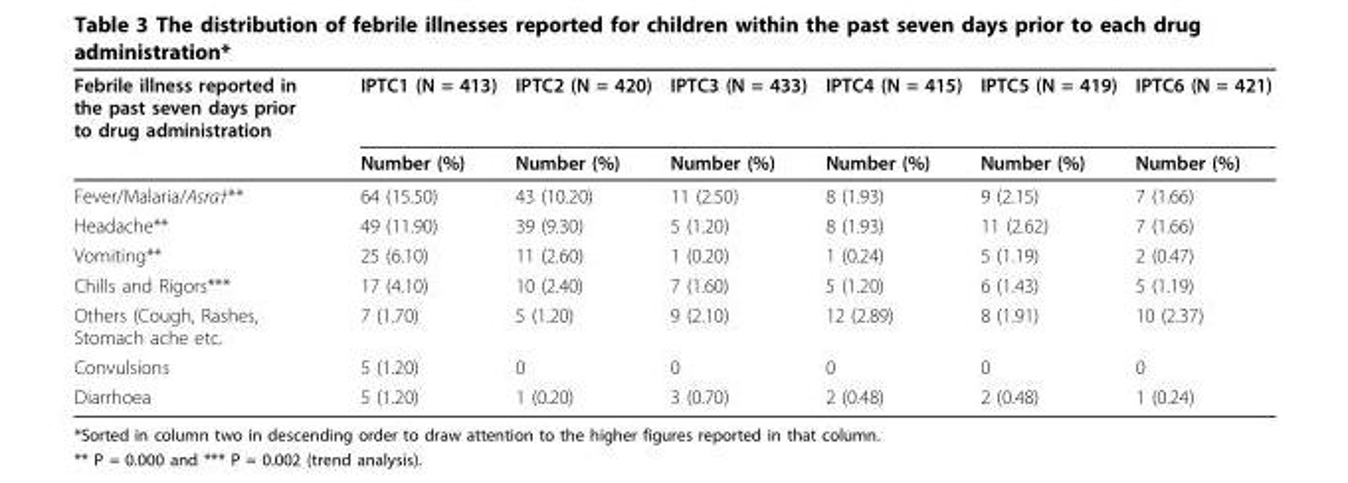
<table><thead><tr><td rowspan="2">Febrile illness reported in the past seven days prior to drug administration</td><td rowspan="2">IPTC1 (N = 413) Number (%)</td><td rowspan="2">IPTC2 (N = 420) Number (%)</td><td rowspan="2">IPTC3 (N = 433) Number (%)</td><td rowspan="2">IPTC4 (N = 415) Number (%)</td><td rowspan="2">IPTC5 (N = 419) Number (%)</td><td rowspan="2">IPTC6 (N = 421) Number (%)</td></tr><tr></tr></thead><tbody><tr><td>Fever/Malaria/Asra†**</td><td>64 (15.50)</td><td>43 (10.20)</td><td>11 (2.50)</td><td>8 (1.93)</td><td>9 (2.15)</td><td>7 (1.66)</td></tr><tr><td>Headache**</td><td>49 (11.90)</td><td>39 (9.30)</td><td>5 (1.20)</td><td>8 (1.93)</td><td>11 (2.62)</td><td>7 (1.66)</td></tr><tr><td>Vomiting**</td><td>25 (6.10)</td><td>11 (2.60)</td><td>1 (0.20)</td><td>1 (0.24)</td><td>5 (1.19)</td><td>2 (0.47)</td></tr><tr><td>Chills and Rigors***</td><td>17 (4.10)</td><td>10 (2.40)</td><td>7 (1.60)</td><td>5 (1.20)</td><td>6 (1.43)</td><td>5 (1.19)</td></tr><tr><td>Others (Cough, Rashes, Stomach ache etc.</td><td>7 (1.70)</td><td>5 (1.20)</td><td>9 (2.10)</td><td>12 (2.89)</td><td>8 (1.91)</td><td>10 (2.37)</td></tr><tr><td>Convulsions</td><td>5 (1.20)</td><td>0</td><td>0</td><td>0</td><td>0</td><td>0</td></tr><tr><td>Diarrhoea</td><td>5 (1.20)</td><td>1 (0.20)</td><td>3 (0.70)</td><td>2 (0.48)</td><td>2 (0.48)</td><td>1 (0.24)</td></tr></tbody></table>